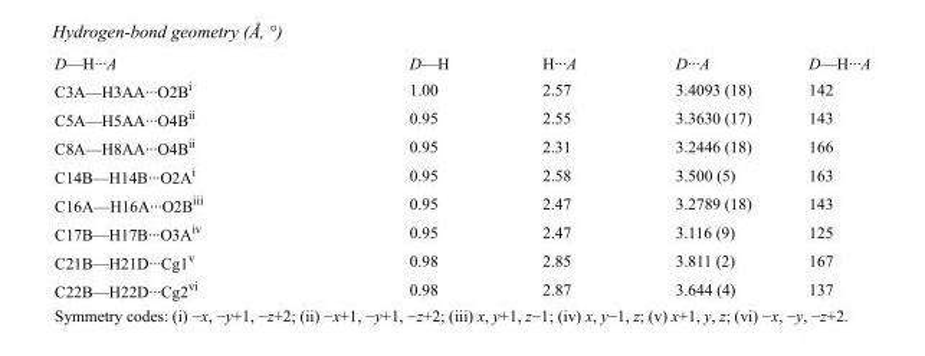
<table><tbody><tr><td>D—H···A</td><td>D—H</td><td>H···A</td><td>D···A</td><td>D—H···A</td></tr><tr><td>C3A—H3AA···O2B<sup>i</sup></td><td>1.00</td><td>2.57</td><td>3.4093 (18)</td><td>142</td></tr><tr><td>C5A—H5AA···O4B<sup>ii</sup></td><td>0.95</td><td>2.55</td><td>3.3630 (17)</td><td>143</td></tr><tr><td>C8A—H8AA···O4B<sup>ii</sup></td><td>0.95</td><td>2.31</td><td>3.2446 (18)</td><td>166</td></tr><tr><td>C14B—H14B···O2A<sup>i</sup></td><td>0.95</td><td>2.58</td><td>3.500 (5)</td><td>163</td></tr><tr><td>C16A—H16A···O2B<sup>iii</sup></td><td>0.95</td><td>2.47</td><td>3.2789 (18)</td><td>143</td></tr><tr><td>C17B—H17B···O3A<sup>iv</sup></td><td>0.95</td><td>2.47</td><td>3.116 (9)</td><td>125</td></tr><tr><td>C21B—H21D···Cg1<sup>v</sup></td><td>0.98</td><td>2.85</td><td>3.811 (2)</td><td>167</td></tr><tr><td>C22B—H22D···Cg2<sup>vi</sup></td><td>0.98</td><td>2.87</td><td>3.644 (4)</td><td>137</td></tr></tbody></table>